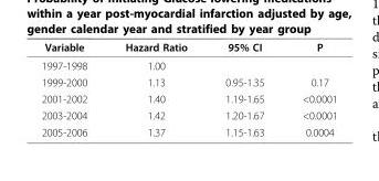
<table><thead><tr><td>Variable</td><td>Hazard Ratio</td><td>95% CI</td><td>P</td></tr></thead><tbody><tr><td>1997-1998</td><td>1.00</td><td></td><td></td></tr><tr><td>1999-2000</td><td>1.13</td><td>0.95-1.35</td><td>0.17</td></tr><tr><td>2001-2002</td><td>1.40</td><td>1.19-1.65</td><td>&lt;0.0001</td></tr><tr><td>2003-2004</td><td>1.42</td><td>1.20-1.67</td><td>&lt;0.0001</td></tr><tr><td>2005-2006</td><td>1.37</td><td>1.15-1.63</td><td>0.0004</td></tr></tbody></table>